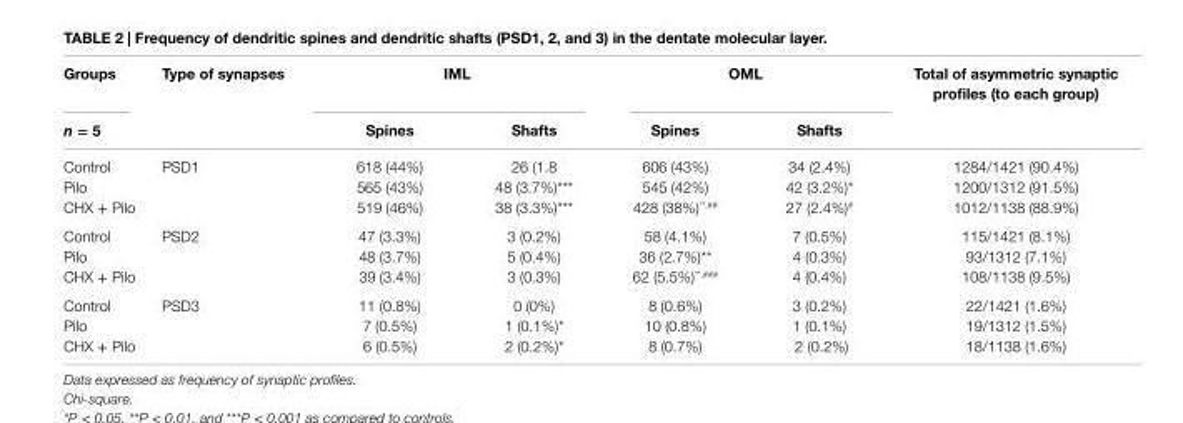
<table><thead><tr><td rowspan="2">groups n = 5</td><td rowspan="2">Type of synapses</td><td colspan="2">iMl</td><td colspan="2">OMl</td><td rowspan="2">Total of asymmetric synaptic profiles (to each group)</td></tr><tr><td>spines</td><td>shafts</td><td>spines</td><td>shafts</td></tr></thead><tbody><tr><td>Control</td><td rowspan="3">PSD1</td><td>618 (44%)</td><td>26 (1.8</td><td>606 (43%)</td><td>34 (2.4%)</td><td>1284/1421 (90.4%)</td></tr><tr><td>Pilo</td><td>565 (43%)</td><td>48 (3.7%)***</td><td>545 (42%)</td><td>42 (3.2%)*</td><td>1200/1312 (91.5%)</td></tr><tr><td>CHX + Pilo</td><td>519 (46%)</td><td>38 (3.3%)***</td><td>428 (38%)<sup>**,##</sup></td><td>27 (2.4%)<sup>#</sup></td><td>1012/1138 (88.9%)</td></tr><tr><td>Control</td><td rowspan="3">PSD2</td><td>47 (3.3%)</td><td>3 (0.2%)</td><td>58 (4.1%)</td><td>7 (0.5%)</td><td>115/1421 (8.1%)</td></tr><tr><td>Pilo</td><td>48 (3.7%)</td><td>5 (0.4%)</td><td>36 (2.7%)**</td><td>4 (0.3%)</td><td>93/1312 (7.1%)</td></tr><tr><td>CHX + Pilo</td><td>39 (3.4%)</td><td>3 (0.3%)</td><td>62 (5.5%)<sup>**,###</sup></td><td>4 (0.4%)</td><td>108/1138 (9.5%)</td></tr><tr><td>Control</td><td rowspan="3">PSD3</td><td>11 (0.8%)</td><td>0 (0%)</td><td>8 (0.6%)</td><td>3 (0.2%)</td><td>22/1421 (1.6%)</td></tr><tr><td>Pilo</td><td>7 (0.5%)</td><td>1 (0.1%)*</td><td>10 (0.8%)</td><td>1 (0.1%)</td><td>19/1312 (1.5%)</td></tr><tr><td>CHX + Pilo</td><td>6 (0.5%)</td><td>2 (0.2%)*</td><td>8 (0.7%)</td><td>2 (0.2%)</td><td>18/1138 (1.6%)</td></tr></tbody></table>